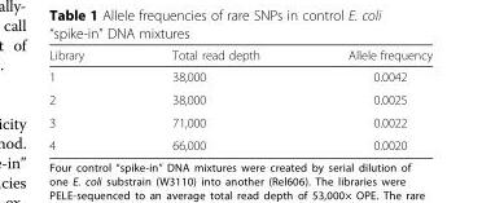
<table><thead><tr><td>Library</td><td>Total read depth</td><td>Allele frequency</td></tr></thead><tbody><tr><td>1</td><td>38,000</td><td>0.0042</td></tr><tr><td>2</td><td>38,000</td><td>0.0025</td></tr><tr><td>3</td><td>71,000</td><td>0.0022</td></tr><tr><td>4</td><td>66,000</td><td>0.0020</td></tr></tbody></table>